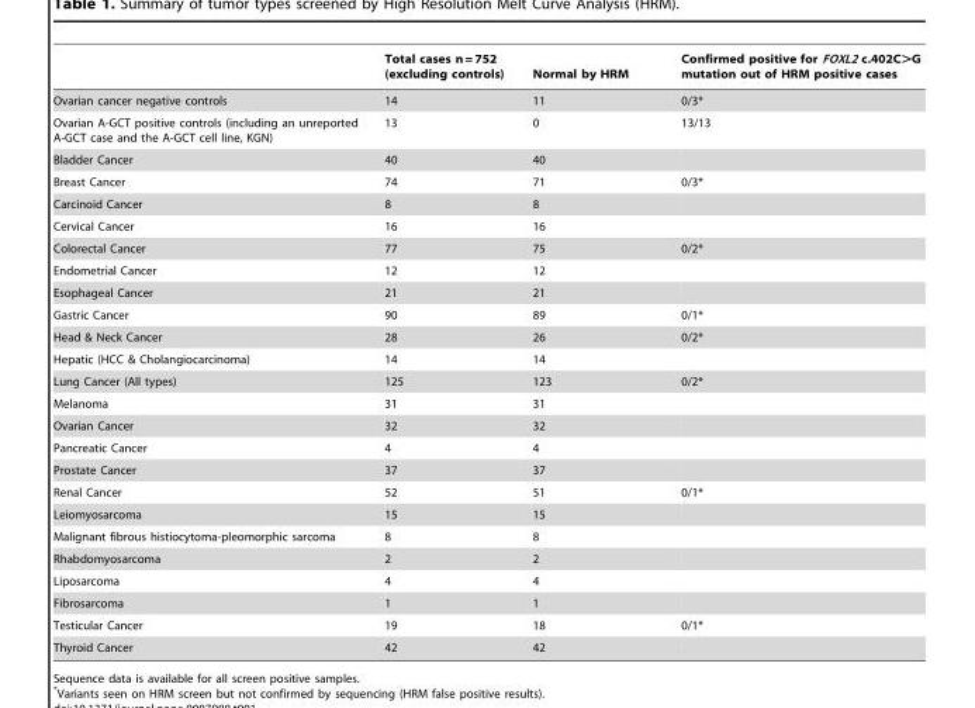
<table><thead><tr><td></td><td>Total cases n = 752 (excluding controls)</td><td>Normal by HRM</td><td>Confirmed positive for FOXL2 c.402C&gt;G mutation out of HRM positive cases</td></tr></thead><tbody><tr><td>Ovarian cancer negative controls</td><td>14</td><td>11</td><td>0/3*</td></tr><tr><td>Ovarian A-GCT positive controls (including an unreported A-GCT case and the A-GCT cell line, KGN)</td><td>13</td><td>0</td><td>13/13</td></tr><tr><td>Bladder Cancer</td><td>40</td><td>40</td><td></td></tr><tr><td>Breast Cancer</td><td>74</td><td>71</td><td>0/3*</td></tr><tr><td>Carcinoid Cancer</td><td>8</td><td>8</td><td></td></tr><tr><td>Cervical Cancer</td><td>16</td><td>16</td><td></td></tr><tr><td>Colorectal Cancer</td><td>77</td><td>75</td><td>0/2*</td></tr><tr><td>Endometrial Cancer</td><td>12</td><td>12</td><td></td></tr><tr><td>Esophageal Cancer</td><td>21</td><td>21</td><td></td></tr><tr><td>Gastric Cancer</td><td>90</td><td>89</td><td>0/1*</td></tr><tr><td>Head &amp; Neck Cancer</td><td>28</td><td>26</td><td>0/2*</td></tr><tr><td>Hepatic (HCC &amp; Cholangiocarcinoma)</td><td>14</td><td>14</td><td></td></tr><tr><td>Lung Cancer (All types)</td><td>125</td><td>123</td><td>0/2*</td></tr><tr><td>Melanoma</td><td>31</td><td>31</td><td></td></tr><tr><td>Ovarian Cancer</td><td>32</td><td>32</td><td></td></tr><tr><td>Pancreatic Cancer</td><td>4</td><td>4</td><td></td></tr><tr><td>Prostate Cancer</td><td>37</td><td>37</td><td></td></tr><tr><td>Renal Cancer</td><td>52</td><td>51</td><td>0/1*</td></tr><tr><td>Leiomyosarcoma</td><td>15</td><td>15</td><td></td></tr><tr><td>Malignant fibrous histiocytoma-pleomorphic sarcoma</td><td>8</td><td>8</td><td></td></tr><tr><td>Rhabdomyosarcoma</td><td>2</td><td>2</td><td></td></tr><tr><td>Liposarcoma</td><td>4</td><td>4</td><td></td></tr><tr><td>Fibrosarcoma</td><td>1</td><td>1</td><td></td></tr><tr><td>Testicular Cancer</td><td>19</td><td>18</td><td>0/1*</td></tr><tr><td>Thyroid Cancer</td><td>42</td><td>42</td><td></td></tr></tbody></table>